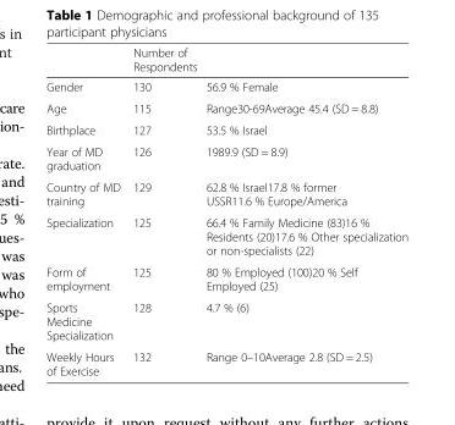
<table><thead><tr><td></td><td>Number of Respondents</td><td></td></tr></thead><tbody><tr><td>Gender</td><td>130</td><td>56.9 % Female</td></tr><tr><td>Age</td><td>115</td><td>Range30-69Average 45.4 (SD = 8.8)</td></tr><tr><td>Birthplace</td><td>127</td><td>53.5 % Israel</td></tr><tr><td>Year of MD graduation</td><td>126</td><td>1989.9 (SD = 8.9)</td></tr><tr><td>Country of MD training</td><td>129</td><td>62.8 % Israel17.8 % former USSR11.6 % Europe/America</td></tr><tr><td>Specialization</td><td>125</td><td>66.4 % Family Medicine (83)16 % Residents (20)17.6 % Other specialization or non-specialists (22)</td></tr><tr><td>Form of employment</td><td>125</td><td>80 % Employed (100)20 % Self Employed (25)</td></tr><tr><td>Sports Medicine Specialization</td><td>128</td><td>4.7 % (6)</td></tr><tr><td>Weekly Hours of Exercise</td><td>132</td><td>Range 0–10Average 2.8 (SD = 2.5)</td></tr></tbody></table>